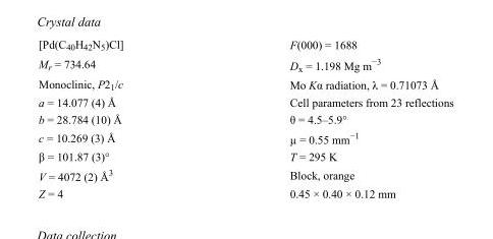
<table><tbody><tr><td>[Pd(C<sub>40</sub>H<sub>42</sub>N<sub>5</sub>)Cl]</td><td>F(000) = 1688</td></tr><tr><td>M<sub>r</sub> = 734.64</td><td>D<sub>x</sub> = 1.198 Mg m<sup>−3</sup></td></tr><tr><td>Monoclinic, P2<sub>1</sub>/c</td><td>Mo Kα radiation, λ = 0.71073 Å</td></tr><tr><td>a = 14.077 (4) Å</td><td>Cell parameters from 23 reflections</td></tr><tr><td>b = 28.784 (10) Å</td><td>θ = 4.5–5.9°</td></tr><tr><td>c = 10.269 (3) Å</td><td>µ = 0.55 mm<sup>−1</sup></td></tr><tr><td>β = 101.87 (3)°</td><td>T = 295 K</td></tr><tr><td>V = 4072 (2) Å<sup>3</sup></td><td>Block, orange</td></tr><tr><td>Z = 4</td><td>0.45 × 0.40 × 0.12 mm</td></tr></tbody></table>